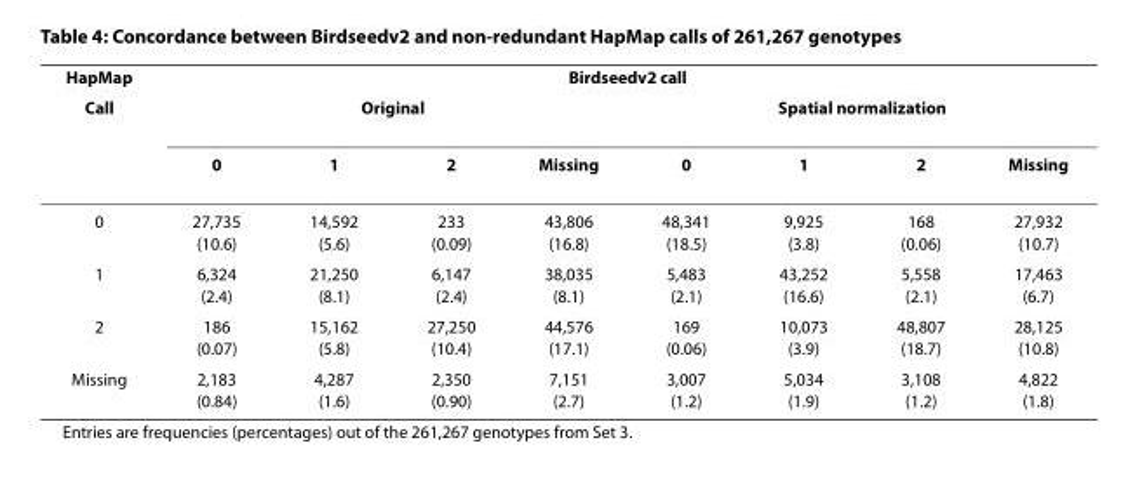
<table><thead><tr><td rowspan="3">HapMap Call</td><td colspan="8">Birdseedv2 call</td></tr><tr><td colspan="4">Original</td><td colspan="4">Spatial normalization</td></tr><tr><td>0</td><td>1</td><td>2</td><td>Missing</td><td>0</td><td>1</td><td>2</td><td>Missing</td></tr></thead><tbody><tr><td>0</td><td>27,735 (10.6)</td><td>14,592 (5.6)</td><td>233 (0.09)</td><td>43,806 (16.8)</td><td>48,341 (18.5)</td><td>9,925 (3.8)</td><td>168 (0.06)</td><td>27,932 (10.7)</td></tr><tr><td>1</td><td>6,324 (2.4)</td><td>21,250 (8.1)</td><td>6,147 (2.4)</td><td>38,035 (8.1)</td><td>5,483 (2.1)</td><td>43,252 (16.6)</td><td>5,558 (2.1)</td><td>17,463 (6.7)</td></tr><tr><td>2</td><td>186 (0.07)</td><td>15,162 (5.8)</td><td>27,250 (10.4)</td><td>44,576 (17.1)</td><td>169 (0.06)</td><td>10,073 (3.9)</td><td>48,807 (18.7)</td><td>28,125 (10.8)</td></tr><tr><td>Missing</td><td>2,183 (0.84)</td><td>4,287 (1.6)</td><td>2,350 (0.90)</td><td>7,151 (2.7)</td><td>3,007 (1.2)</td><td>5,034 (1.9)</td><td>3,108 (1.2)</td><td>4,822 (1.8)</td></tr></tbody></table>